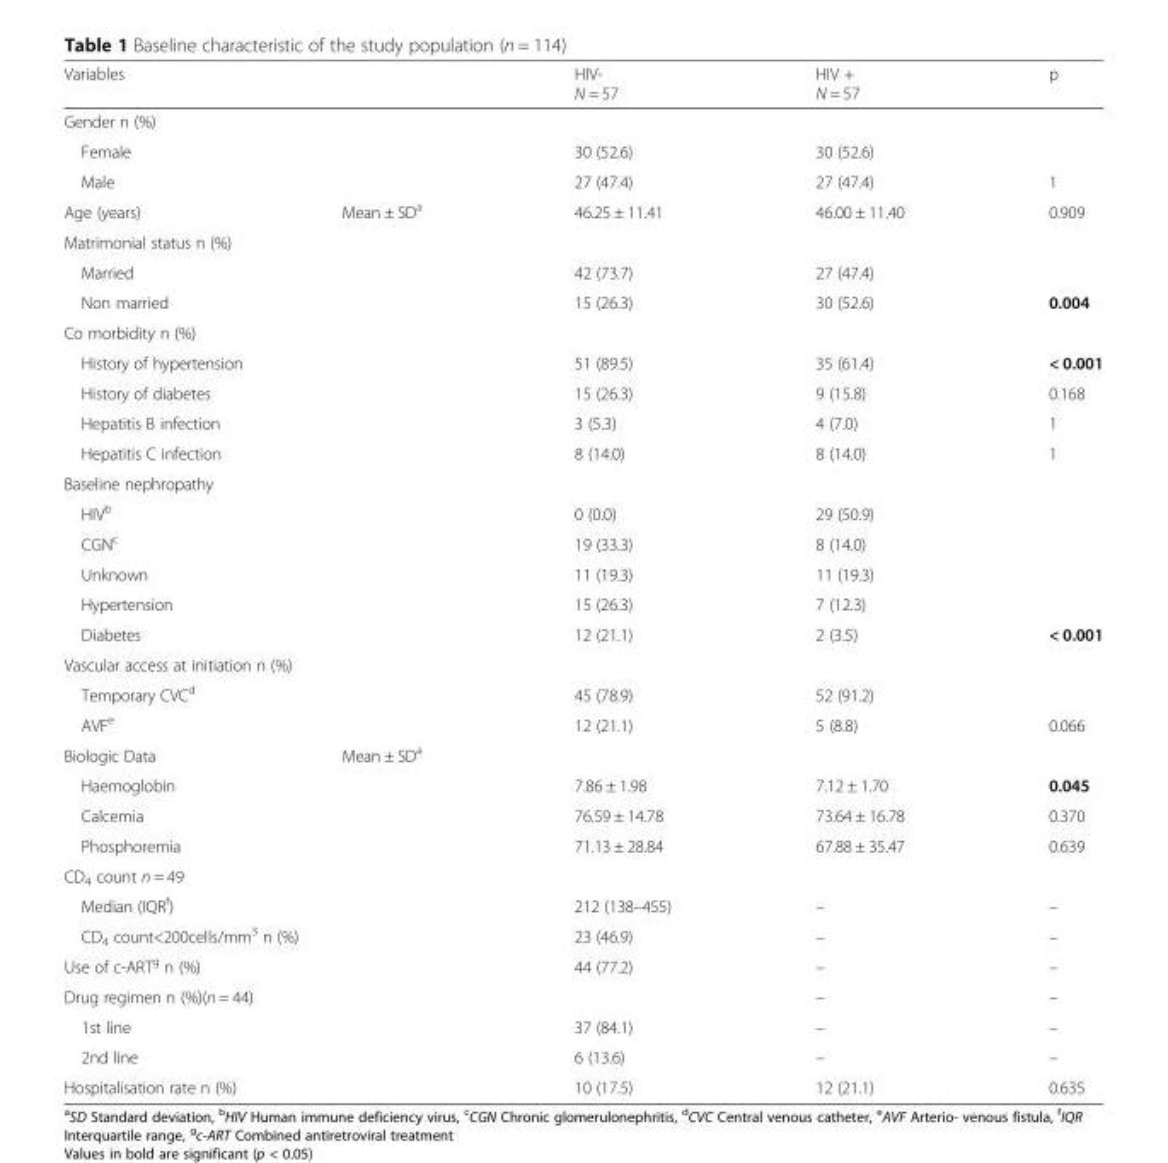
<table><thead><tr><td colspan="2">Variables</td><td>HIV- N = 57</td><td>HIV + N = 57</td><td>p</td></tr></thead><tbody><tr><td colspan="5">Gender n (%)</td></tr><tr><td colspan="2">Female</td><td>30 (52.6)</td><td>30 (52.6)</td><td></td></tr><tr><td colspan="2">Male</td><td>27 (47.4)</td><td>27 (47.4)</td><td>1</td></tr><tr><td>Age (years)</td><td>Mean ± SD<sup>a</sup></td><td>46.25 ± 11.41</td><td>46.00 ± 11.40</td><td>0.909</td></tr><tr><td colspan="5">Matrimonial status n (%)</td></tr><tr><td colspan="2">Married</td><td>42 (73.7)</td><td>27 (47.4)</td><td></td></tr><tr><td colspan="2">Non married</td><td>15 (26.3)</td><td>30 (52.6)</td><td>0.004</td></tr><tr><td colspan="5">Co morbidity n (%)</td></tr><tr><td colspan="2">History of hypertension</td><td>51 (89.5)</td><td>35 (61.4)</td><td>&lt; 0.001</td></tr><tr><td colspan="2">History of diabetes</td><td>15 (26.3)</td><td>9 (15.8)</td><td>0.168</td></tr><tr><td colspan="2">Hepatitis B infection</td><td>3 (5.3)</td><td>4 (7.0)</td><td>1</td></tr><tr><td colspan="2">Hepatitis C infection</td><td>8 (14.0)</td><td>8 (14.0)</td><td>1</td></tr><tr><td colspan="5">Baseline nephropathy</td></tr><tr><td colspan="2">HIV<sup>b</sup></td><td>0 (0.0)</td><td>29 (50.9)</td><td></td></tr><tr><td colspan="2">CGN<sup>c</sup></td><td>19 (33.3)</td><td>8 (14.0)</td><td></td></tr><tr><td colspan="2">Unknown</td><td>11 (19.3)</td><td>11 (19.3)</td><td></td></tr><tr><td colspan="2">Hypertension</td><td>15 (26.3)</td><td>7 (12.3)</td><td></td></tr><tr><td colspan="2">Diabetes</td><td>12 (21.1)</td><td>2 (3.5)</td><td>&lt; 0.001</td></tr><tr><td colspan="5">Vascular access at initiation n (%)</td></tr><tr><td colspan="2">Temporary CVC<sup>d</sup></td><td>45 (78.9)</td><td>52 (91.2)</td><td></td></tr><tr><td colspan="2">AVF<sup>e</sup></td><td>12 (21.1)</td><td>5 (8.8)</td><td>0.066</td></tr><tr><td>Biologic Data</td><td colspan="4">Mean ± SD<sup>a</sup></td></tr><tr><td colspan="2">Haemoglobin</td><td>7.86 ± 1.98</td><td>7.12 ± 1.70</td><td>0.045</td></tr><tr><td colspan="2">Calcemia</td><td>76.59 ± 14.78</td><td>73.64 ± 16.78</td><td>0.370</td></tr><tr><td colspan="2">Phosphoremia</td><td>71.13 ± 28.84</td><td>67.88 ± 35.47</td><td>0.639</td></tr><tr><td colspan="5">CD<sub>4</sub> count n = 49</td></tr><tr><td colspan="2">Median (IQR<sup>f</sup>)</td><td>212 (138–455)</td><td>–</td><td>–</td></tr><tr><td colspan="2">CD<sub>4</sub> count&lt;200cells/mm<sup>3</sup> n (%)</td><td>23 (46.9)</td><td>–</td><td>–</td></tr><tr><td colspan="2">Use of c-ART<sup>g</sup> n (%)</td><td>44 (77.2)</td><td>–</td><td>–</td></tr><tr><td colspan="2">Drug regimen n (%)(n = 44)</td><td></td><td>–</td><td>–</td></tr><tr><td colspan="2">1st line</td><td>37 (84.1)</td><td>–</td><td>–</td></tr><tr><td colspan="2">2nd line</td><td>6 (13.6)</td><td>–</td><td>–</td></tr><tr><td colspan="2">Hospitalisation rate n (%)</td><td>10 (17.5)</td><td>12 (21.1)</td><td>0.635</td></tr></tbody></table>